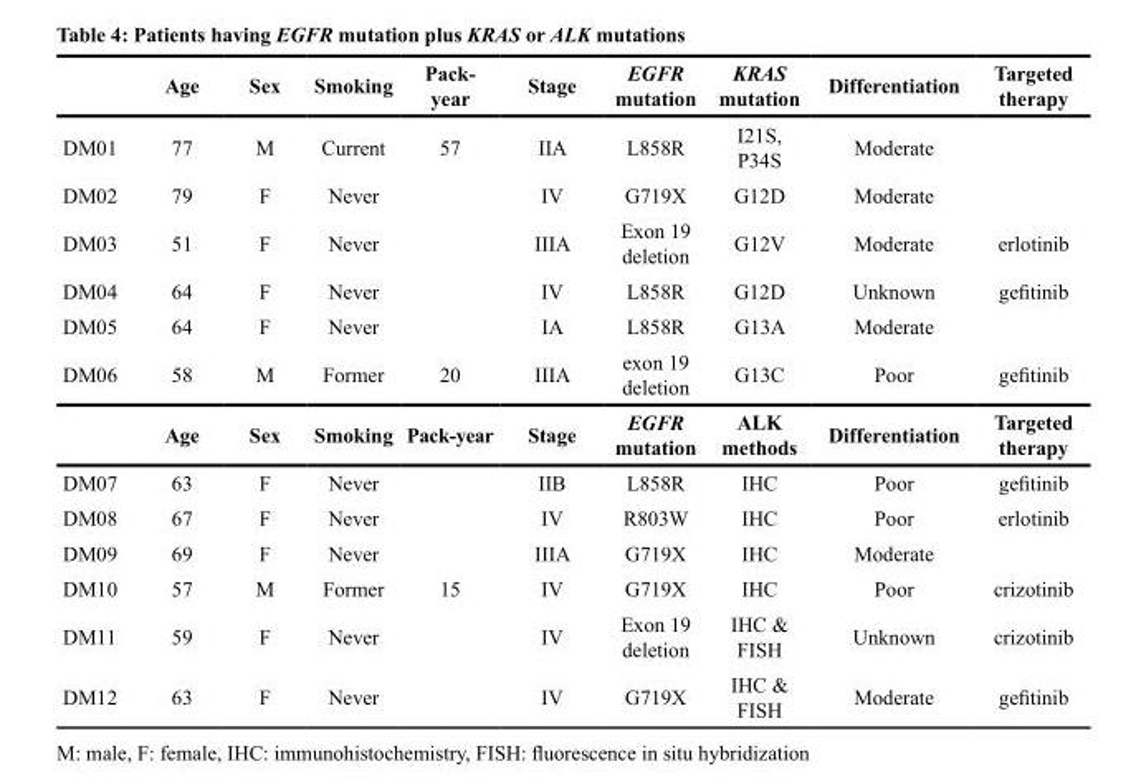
<table><thead><tr><td></td><td>Age</td><td>Sex</td><td>Smoking</td><td>Pack- year</td><td>Stage</td><td>EGFR mutation</td><td>KRAS mutation</td><td>Differentiation</td><td>Targeted therapy</td></tr></thead><tbody><tr><td>DM01</td><td>77</td><td>M</td><td>Current</td><td>57</td><td>IIA</td><td>L858R</td><td>I21S, P34S</td><td>Moderate</td><td></td></tr><tr><td>DM02</td><td>79</td><td>F</td><td>Never</td><td></td><td>IV</td><td>G719X</td><td>G12D</td><td>Moderate</td><td></td></tr><tr><td>DM03</td><td>51</td><td>F</td><td>Never</td><td></td><td>IIIA</td><td>Exon 19 deletion</td><td>G12V</td><td>Moderate</td><td>erlotinib</td></tr><tr><td>DM04</td><td>64</td><td>F</td><td>Never</td><td></td><td>IV</td><td>L858R</td><td>G12D</td><td>Unknown</td><td>gefitinib</td></tr><tr><td>DM05</td><td>64</td><td>F</td><td>Never</td><td></td><td>IA</td><td>L858R</td><td>G13A</td><td>Moderate</td><td></td></tr><tr><td rowspan="2">DM06</td><td>58</td><td>M</td><td>Former</td><td>20</td><td>IIIA</td><td>exon 19 deletion</td><td>G13C</td><td>Poor</td><td>gefitinib</td></tr><tr><td>Age</td><td>Sex</td><td>Smoking</td><td>Pack-year</td><td>Stage</td><td>EGFR mutation</td><td>ALK methods</td><td>Differentiation</td><td>Targeted therapy</td></tr><tr><td>DM07</td><td>63</td><td>F</td><td>Never</td><td></td><td>IIB</td><td>L858R</td><td>IHC</td><td>Poor</td><td>gefitinib</td></tr><tr><td>DM08</td><td>67</td><td>F</td><td>Never</td><td></td><td>IV</td><td>R803W</td><td>IHC</td><td>Poor</td><td>erlotinib</td></tr><tr><td>DM09</td><td>69</td><td>F</td><td>Never</td><td></td><td>IIIA</td><td>G719X</td><td>IHC</td><td>Moderate</td><td></td></tr><tr><td>DM10</td><td>57</td><td>M</td><td>Former</td><td>15</td><td>IV</td><td>G719X</td><td>IHC</td><td>Poor</td><td>crizotinib</td></tr><tr><td>DM11</td><td>59</td><td>F</td><td>Never</td><td></td><td>IV</td><td>Exon 19 deletion</td><td>IHC &amp; FISH</td><td>Unknown</td><td>crizotinib</td></tr><tr><td>DM12</td><td>63</td><td>F</td><td>Never</td><td></td><td>IV</td><td>G719X</td><td>IHC &amp; FISH</td><td>Moderate</td><td>gefitinib</td></tr></tbody></table>